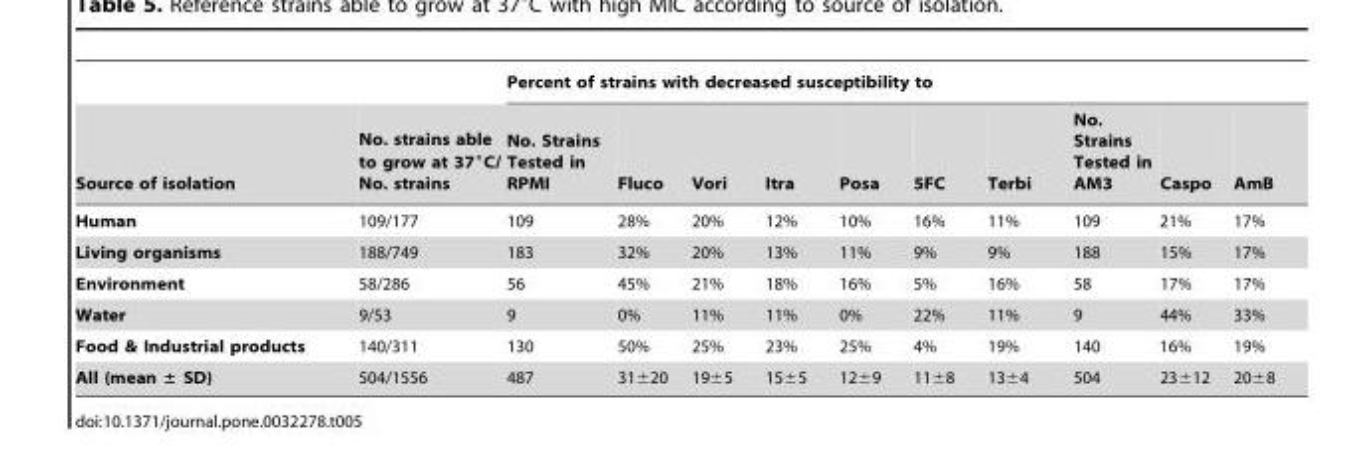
<table><thead><tr><td rowspan="2">Source of isolation</td><td rowspan="2">No. strains able to grow at 37°C/ No. strains</td><td colspan="10">Percent of strains with decreased susceptibility to</td></tr><tr><td>No. Strains Tested in RPMI</td><td>Fluco</td><td>Vori</td><td>Itra</td><td>Posa</td><td>5FC</td><td>Terbi</td><td>No. Strains Tested in AM3</td><td>Caspo</td><td>AmB</td></tr></thead><tbody><tr><td>Human</td><td>109/177</td><td>109</td><td>28%</td><td>20%</td><td>12%</td><td>10%</td><td>16%</td><td>11%</td><td>109</td><td>21%</td><td>17%</td></tr><tr><td>Living organisms</td><td>188/749</td><td>183</td><td>32%</td><td>20%</td><td>13%</td><td>11%</td><td>9%</td><td>9%</td><td>188</td><td>15%</td><td>17%</td></tr><tr><td>Environment</td><td>58/286</td><td>56</td><td>45%</td><td>21%</td><td>18%</td><td>16%</td><td>5%</td><td>16%</td><td>58</td><td>17%</td><td>17%</td></tr><tr><td>Water</td><td>9/53</td><td>9</td><td>0%</td><td>11%</td><td>11%</td><td>0%</td><td>22%</td><td>11%</td><td>9</td><td>44%</td><td>33%</td></tr><tr><td>Food &amp; Industrial products</td><td>140/311</td><td>130</td><td>50%</td><td>25%</td><td>23%</td><td>25%</td><td>4%</td><td>19%</td><td>140</td><td>16%</td><td>19%</td></tr><tr><td>All (mean ± SD)</td><td>504/1556</td><td>487</td><td>31±20</td><td>19±5</td><td>15±5</td><td>12±9</td><td>11±8</td><td>13±4</td><td>504</td><td>23±12</td><td>20±8</td></tr></tbody></table>